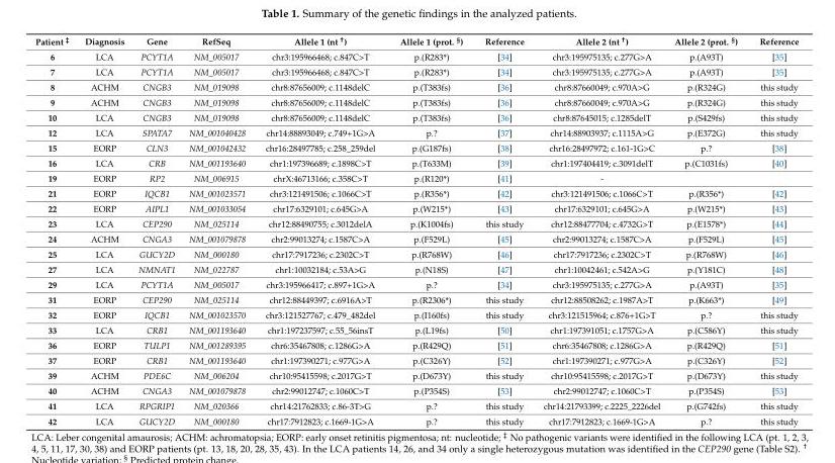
<table><thead><tr><td>Patient <sup>‡</sup></td><td>Diagnosis</td><td>Gene</td><td>RefSeq</td><td>Allele 1 (nt <sup>†</sup>)</td><td>Allele 1 (prot. <sup>§</sup>)</td><td>Reference</td><td>Allele 2 (nt <sup>†</sup>)</td><td>Allele 2 (prot. <sup>§</sup>)</td><td>Reference</td></tr></thead><tbody><tr><td>6</td><td>LCA</td><td>PCYT1A</td><td>NM_005017</td><td>chr3:195966468; c.847C&gt;T</td><td>p.(R283*)</td><td>[34]</td><td>chr3:195975135; c.277G&gt;A</td><td>p.(A93T)</td><td>[35]</td></tr><tr><td>7</td><td>LCA</td><td>PCYT1A</td><td>NM_005017</td><td>chr3:195966468; c.847C&gt;T</td><td>p.(R283*)</td><td>[34]</td><td>chr3:195975135; c.277G&gt;A</td><td>p.(A93T)</td><td>[35]</td></tr><tr><td>8</td><td>ACHM</td><td>CNGB3</td><td>NM_019098</td><td>chr8:87656009; c.1148delC</td><td>p.(T383fs)</td><td>[36]</td><td>chr8:87660049; c.970A&gt;G</td><td>p.(R324G)</td><td>this study</td></tr><tr><td>9</td><td>ACHM</td><td>CNGB3</td><td>NM_019098</td><td>chr8:87656009; c.1148delC</td><td>p.(T383fs)</td><td>[36]</td><td>chr8:87660049; c.970A&gt;G</td><td>p.(R324G)</td><td>this study</td></tr><tr><td>10</td><td>LCA</td><td>CNGB3</td><td>NM_019098</td><td>chr8:87656009; c.1148delC</td><td>p.(T383fs)</td><td>[36]</td><td>chr8:87645015; c.1285delT</td><td>p.(S429fs)</td><td>this study</td></tr><tr><td>12</td><td>LCA</td><td>SPATA7</td><td>NM_001040428</td><td>chr14:88893049; c.749+1G&gt;A</td><td>p.?</td><td>[37]</td><td>chr14:88903937; c.1115A&gt;G</td><td>p.(E372G)</td><td>this study</td></tr><tr><td>15</td><td>EORP</td><td>CLN3</td><td>NM_001042432</td><td>chr16:28497785; c.258_259del</td><td>p.(G187fs)</td><td>[38]</td><td>chr16:28497972; c.161-1G&gt;C</td><td>p.?</td><td>[38]</td></tr><tr><td>16</td><td>LCA</td><td>CRB</td><td>NM_001193640</td><td>chr1:197396689; c.1898C&gt;T</td><td>p.(T633M)</td><td>[39]</td><td>chr1:197404419; c.3091delT</td><td>p.(C1031fs)</td><td>[40]</td></tr><tr><td>19</td><td>EORP</td><td>RP2</td><td>NM_006915</td><td>chrX:46713166; c.358C&gt;T</td><td>p.(R120*)</td><td>[41]</td><td>-</td><td></td><td></td></tr><tr><td>21</td><td>EORP</td><td>IQCB1</td><td>NM_001023571</td><td>chr3:121491506; c.1066C&gt;T</td><td>p.(R356*)</td><td>[42]</td><td>chr3:121491506; c.1066C&gt;T</td><td>p.(R356*)</td><td>[42]</td></tr><tr><td>22</td><td>EORP</td><td>AIPL1</td><td>NM_001033054</td><td>chr17:6329101; c.645G&gt;A</td><td>p.(W215*)</td><td>[43]</td><td>chr17:6329101; c.645G&gt;A</td><td>p.(W215*)</td><td>[43]</td></tr><tr><td>23</td><td>LCA</td><td>CEP290</td><td>NM_025114</td><td>chr12:88490755; c.3012delA</td><td>p.(K1004fs)</td><td>this study</td><td>chr12:88477704; c.4732G&gt;T</td><td>p.(E1578*)</td><td>[44]</td></tr><tr><td>24</td><td>ACHM</td><td>CNGA3</td><td>NM_001079878</td><td>chr2:99013274; c.1587C&gt;A</td><td>p.(F529L)</td><td>[45]</td><td>chr2:99013274; c.1587C&gt;A</td><td>p.(F529L)</td><td>[45]</td></tr><tr><td>25</td><td>LCA</td><td>GUCY2D</td><td>NM_000180</td><td>chr17:7917236; c.2302C&gt;T</td><td>p.(R768W)</td><td>[46]</td><td>chr17:7917236; c.2302C&gt;T</td><td>p.(R768W)</td><td>[46]</td></tr><tr><td>27</td><td>LCA</td><td>NMNAT1</td><td>NM_022787</td><td>chr1:10032184; c.53A&gt;G</td><td>p.(N18S)</td><td>[47]</td><td>chr1:10042461; c.542A&gt;G</td><td>p.(Y181C)</td><td>[48]</td></tr><tr><td>29</td><td>LCA</td><td>PCYT1A</td><td>NM_005017</td><td>chr3:195966417; c.897+1G&gt;A</td><td>p.?</td><td>[34]</td><td>chr3:195975135; c.277G&gt;A</td><td>p.(A93T)</td><td>[35]</td></tr><tr><td>31</td><td>EORP</td><td>CEP290</td><td>NM_025114</td><td>chr12:88449397; c.6916A&gt;T</td><td>p.(R2306*)</td><td>this study</td><td>chr12:88508262; c.1987A&gt;T</td><td>p.(K663*)</td><td>[49]</td></tr><tr><td>32</td><td>EORP</td><td>IQCB1</td><td>NM_001023570</td><td>chr3:121527767; c.479_482del</td><td>p.(I160fs)</td><td>this study</td><td>chr3:121515964; c.876+1G&gt;T</td><td>p.?</td><td>this study</td></tr><tr><td>33</td><td>LCA</td><td>CRB1</td><td>NM_001193640</td><td>chr1:197237597; c.55_56insT</td><td>p.(L19fs)</td><td>[50]</td><td>chr1:197391051; c.1757G&gt;A</td><td>p.(C586Y)</td><td>this study</td></tr><tr><td>36</td><td>EORP</td><td>TULP1</td><td>NM_001289395</td><td>chr6:35467808; c.1286G&gt;A</td><td>p.(R429Q)</td><td>[51]</td><td>chr6:35467808; c.1286G&gt;A</td><td>p.(R429Q)</td><td>[51]</td></tr><tr><td>37</td><td>EORP</td><td>CRB1</td><td>NM_001193640</td><td>chr1:197390271; c.977G&gt;A</td><td>p.(C326Y)</td><td>[52]</td><td>chr1:197390271; c.977G&gt;A</td><td>p.(C326Y)</td><td>[52]</td></tr><tr><td>39</td><td>ACHM</td><td>PDE6C</td><td>NM_006204</td><td>chr10:95415598; c.2017G&gt;T</td><td>p.(D673Y)</td><td>this study</td><td>chr10:95415598; c.2017G&gt;T</td><td>p.(D673Y)</td><td>this study</td></tr><tr><td>40</td><td>ACHM</td><td>CNGA3</td><td>NM_001079878</td><td>chr2:99012747; c.1060C&gt;T</td><td>p.(P354S)</td><td>[53]</td><td>chr2:99012747; c.1060C&gt;T</td><td>p.(P354S)</td><td>[53]</td></tr><tr><td>41</td><td>LCA</td><td>RPGRIP1</td><td>NM_020366</td><td>chr14:21762833; c.86-3T&gt;G</td><td>p.?</td><td>this study</td><td>chr14:21793399; c.2225_2226del</td><td>p.(G742fs)</td><td>this study</td></tr><tr><td>42</td><td>LCA</td><td>GUCY2D</td><td>NM_000180</td><td>chr17:7912823; c.1669-1G&gt;A</td><td>p.?</td><td>this study</td><td>chr17:7912823; c.1669-1G&gt;A</td><td>p.?</td><td>this study</td></tr></tbody></table>